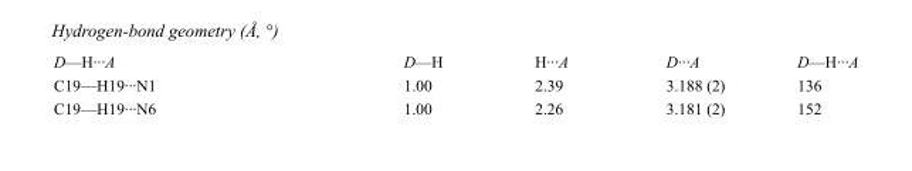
<table><tbody><tr><td>D—H···A</td><td>D—H</td><td>H···A</td><td>D···A</td><td>D—H···A</td></tr><tr><td>C19—H19···N1</td><td>1.00</td><td>2.39</td><td>3.188 (2)</td><td>136</td></tr><tr><td>C19—H19···N6</td><td>1.00</td><td>2.26</td><td>3.181 (2)</td><td>152</td></tr></tbody></table>